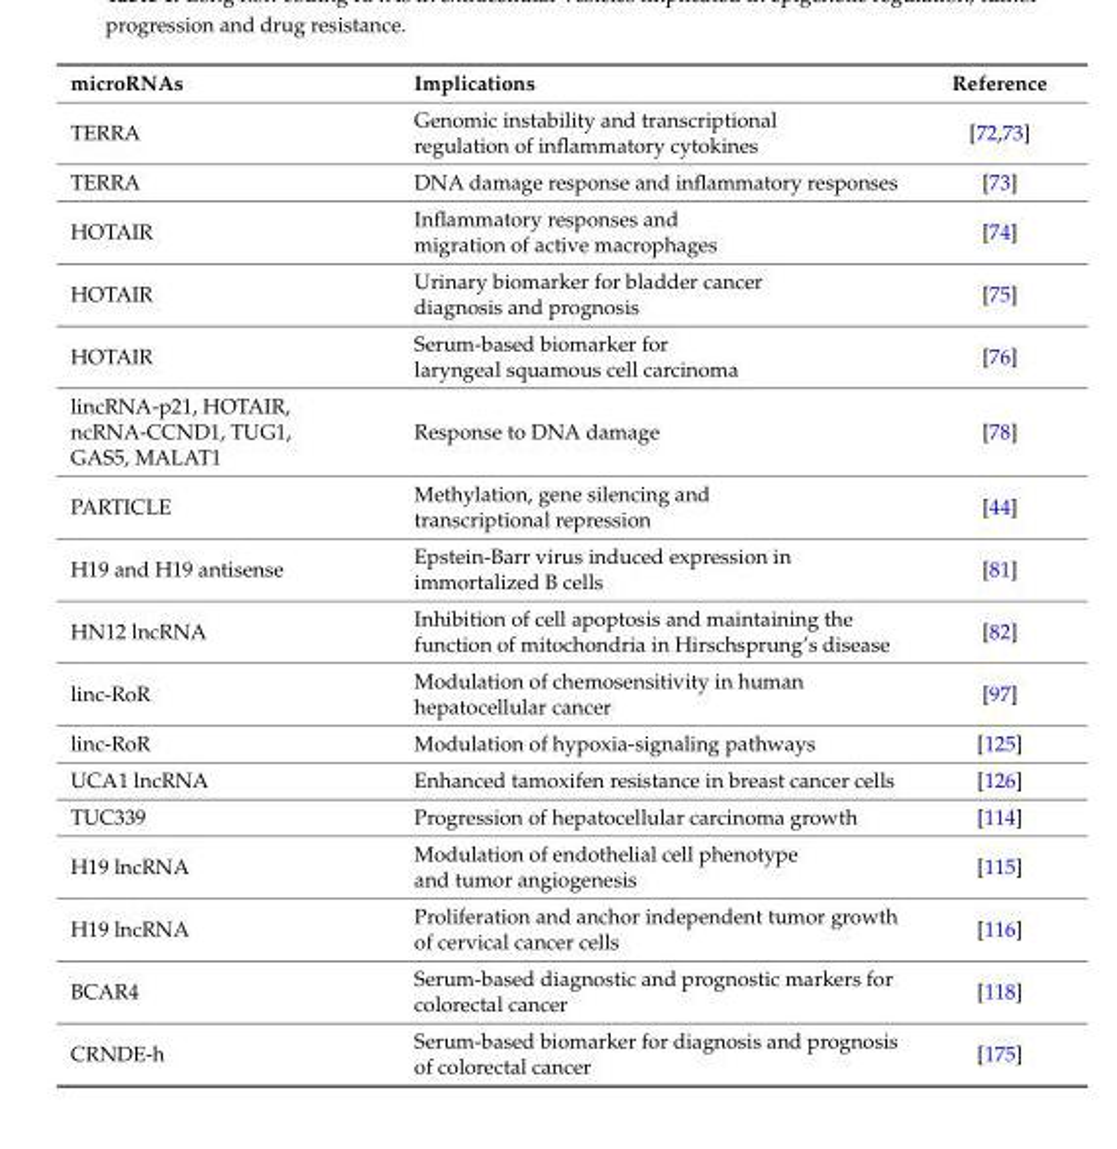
<table><thead><tr><td>microRNAs</td><td>Implications</td><td>Reference</td></tr></thead><tbody><tr><td>TERRA</td><td>Genomic instability and transcriptional regulation of inflammatory cytokines</td><td>[72,73]</td></tr><tr><td>TERRA</td><td>DNA damage response and inflammatory responses</td><td>[73]</td></tr><tr><td>HOTAIR</td><td>Inflammatory responses and migration of active macrophages</td><td>[74]</td></tr><tr><td>HOTAIR</td><td>Urinary biomarker for bladder cancer diagnosis and prognosis</td><td>[75]</td></tr><tr><td>HOTAIR</td><td>Serum-based biomarker for laryngeal squamous cell carcinoma</td><td>[76]</td></tr><tr><td>lincRNA-p21, HOTAIR, ncRNA-CCND1, TUG1, GAS5, MALAT1</td><td>Response to DNA damage</td><td>[78]</td></tr><tr><td>PARTICLE</td><td>Methylation, gene silencing and transcriptional repression</td><td>[44]</td></tr><tr><td>H19 and H19 antisense</td><td>Epstein-Barr virus induced expression in immortalized B cells</td><td>[81]</td></tr><tr><td>HN12 lncRNA</td><td>Inhibition of cell apoptosis and maintaining the function of mitochondria in Hirschsprung’s disease</td><td>[82]</td></tr><tr><td>linc-RoR</td><td>Modulation of chemosensitivity in human hepatocellular cancer</td><td>[97]</td></tr><tr><td>linc-RoR</td><td>Modulation of hypoxia-signaling pathways</td><td>[125]</td></tr><tr><td>UCA1 lncRNA</td><td>Enhanced tamoxifen resistance in breast cancer cells</td><td>[126]</td></tr><tr><td>TUC339</td><td>Progression of hepatocellular carcinoma growth</td><td>[114]</td></tr><tr><td>H19 lncRNA</td><td>Modulation of endothelial cell phenotype and tumor angiogenesis</td><td>[115]</td></tr><tr><td>H19 lncRNA</td><td>Proliferation and anchor independent tumor growth of cervical cancer cells</td><td>[116]</td></tr><tr><td>BCAR4</td><td>Serum-based diagnostic and prognostic markers for colorectal cancer</td><td>[118]</td></tr><tr><td>CRNDE-h</td><td>Serum-based biomarker for diagnosis and prognosis of colorectal cancer</td><td>[175]</td></tr></tbody></table>